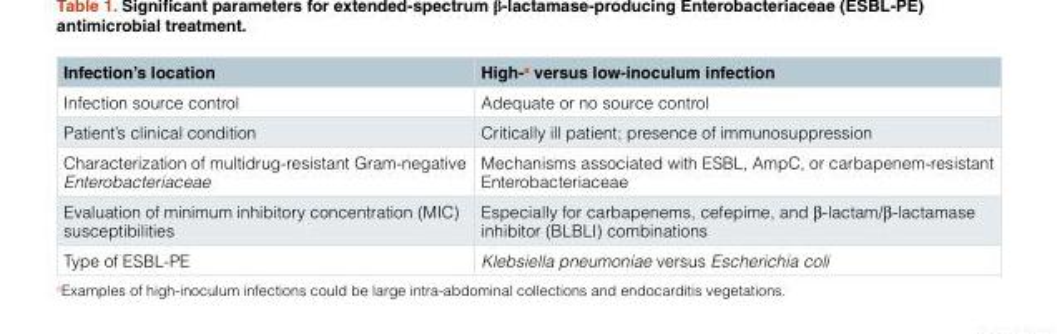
<table><thead><tr><td>Infection’s location</td><td>High-<sup>a</sup> versus low-inoculum infection</td></tr></thead><tbody><tr><td>Infection source control</td><td>Adequate or no source control</td></tr><tr><td>Patient’s clinical condition</td><td>Critically ill patient; presence of immunosuppression</td></tr><tr><td>Characterization of multidrug-resistant Gram-negative Enterobacteriaceae</td><td>Mechanisms associated with ESBL, AmpC, or carbapenem-resistant Enterobacteriaceae</td></tr><tr><td>Evaluation of minimum inhibitory concentration (MIC) susceptibilities</td><td>Especially for carbapenems, cefepime, and β-lactam/β-lactamase inhibitor (BLBLI) combinations</td></tr><tr><td>Type of ESBL-PE</td><td>Klebsiella pneumoniae versus Escherichia coli</td></tr></tbody></table>